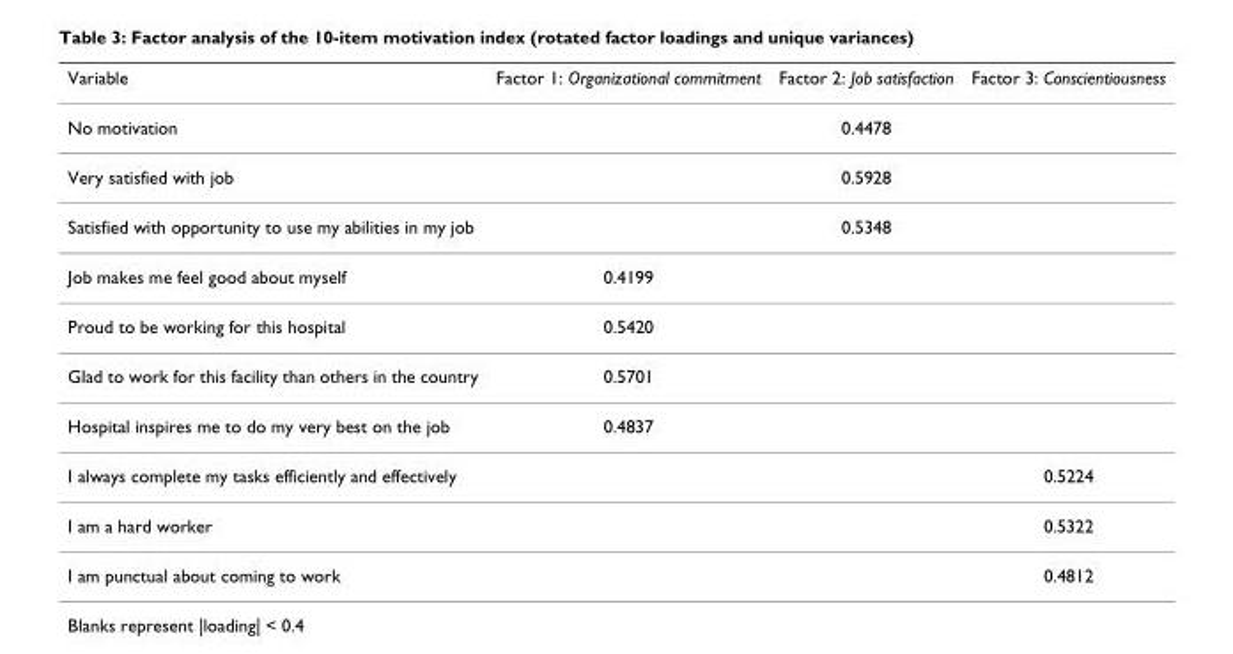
<table><thead><tr><td>Variable</td><td>Factor 1: Organizational commitment</td><td>Factor 2: Job satisfaction</td><td>Factor 3: Conscientiousness</td></tr></thead><tbody><tr><td>No motivation</td><td></td><td>0.4478</td><td></td></tr><tr><td>Very satisfied with job</td><td></td><td>0.5928</td><td></td></tr><tr><td>Satisfied with opportunity to use my abilities in my job</td><td></td><td>0.5348</td><td></td></tr><tr><td>Job makes me feel good about myself</td><td>0.4199</td><td></td><td></td></tr><tr><td>Proud to be working for this hospital</td><td>0.5420</td><td></td><td></td></tr><tr><td>Glad to work for this facility than others in the country</td><td>0.5701</td><td></td><td></td></tr><tr><td>Hospital inspires me to do my very best on the job</td><td>0.4837</td><td></td><td></td></tr><tr><td>I always complete my tasks efficiently and effectively</td><td></td><td></td><td>0.5224</td></tr><tr><td>I am a hard worker</td><td></td><td></td><td>0.5322</td></tr><tr><td>I am punctual about coming to work</td><td></td><td></td><td>0.4812</td></tr></tbody></table>